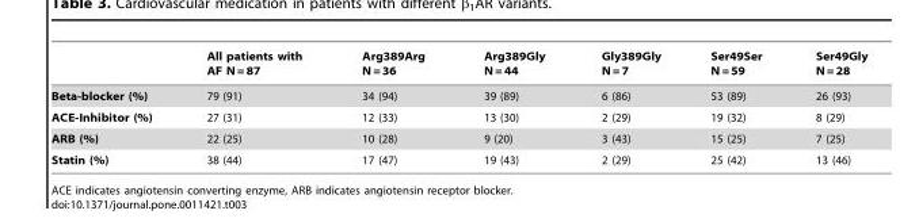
<table><thead><tr><td></td><td>All patients with AF N = 87</td><td>Arg389Arg N = 36</td><td>Arg389Gly N = 44</td><td>Gly389Gly N = 7</td><td>Ser49Ser N = 59</td><td>Ser49Gly N = 28</td></tr></thead><tbody><tr><td>Beta-blocker (%)</td><td>79 (91)</td><td>34 (94)</td><td>39 (89)</td><td>6 (86)</td><td>53 (89)</td><td>26 (93)</td></tr><tr><td>ACE-Inhibitor (%)</td><td>27 (31)</td><td>12 (33)</td><td>13 (30)</td><td>2 (29)</td><td>19 (32)</td><td>8 (29)</td></tr><tr><td>ARB (%)</td><td>22 (25)</td><td>10 (28)</td><td>9 (20)</td><td>3 (43)</td><td>15 (25)</td><td>7 (25)</td></tr><tr><td>Statin (%)</td><td>38 (44)</td><td>17 (47)</td><td>19 (43)</td><td>2 (29)</td><td>25 (42)</td><td>13 (46)</td></tr></tbody></table>